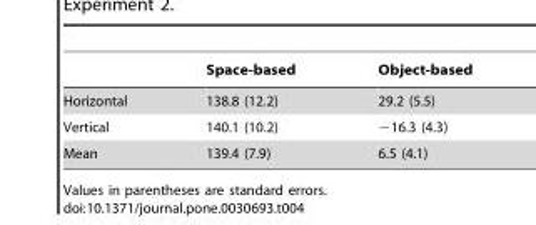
<table><thead><tr><td></td><td>Space-based</td><td>Object-based</td></tr></thead><tbody><tr><td>Horizontal</td><td>138.8 (12.2)</td><td>29.2 (5.5)</td></tr><tr><td>Vertical</td><td>140.1 (10.2)</td><td>−16.3 (4.3)</td></tr><tr><td>Mean</td><td>139.4 (7.9)</td><td>6.5 (4.1)</td></tr></tbody></table>